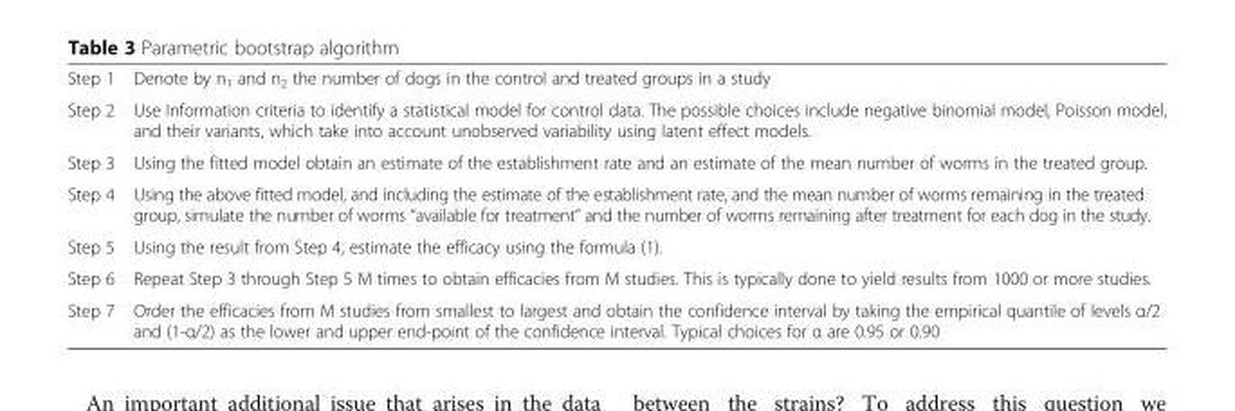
<table><tbody><tr><td>Step 1</td><td>Denote by n<sub>1</sub> and n<sub>2</sub> the number of dogs in the control and treated groups in a study</td></tr><tr><td>Step 2</td><td>Use Information criteria to identify a statistical model for control data. The possible choices include negative binomial model, Poisson model, and their variants, which take into account unobserved variability using latent effect models.</td></tr><tr><td>Step 3</td><td>Using the fitted model obtain an estimate of the establishment rate and an estimate of the mean number of worms in the treated group.</td></tr><tr><td>Step 4</td><td>Using the above fitted model, and including the estimate of the establishment rate, and the mean number of worms remaining in the treated group, simulate the number of worms “available for treatment” and the number of worms remaining after treatment for each dog in the study.</td></tr><tr><td>Step 5</td><td>Using the result from Step 4, estimate the efficacy using the formula (1).</td></tr><tr><td>Step 6</td><td>Repeat Step 3 through Step 5 M times to obtain efficacies from M studies. This is typically done to yield results from 1000 or more studies.</td></tr><tr><td>Step 7</td><td>Order the efficacies from M studies from smallest to largest and obtain the confidence interval by taking the empirical quantile of levels α/2 and (1-α/2) as the lower and upper end-point of the confidence interval. Typical choices for α are 0.95 or 0.90</td></tr></tbody></table>